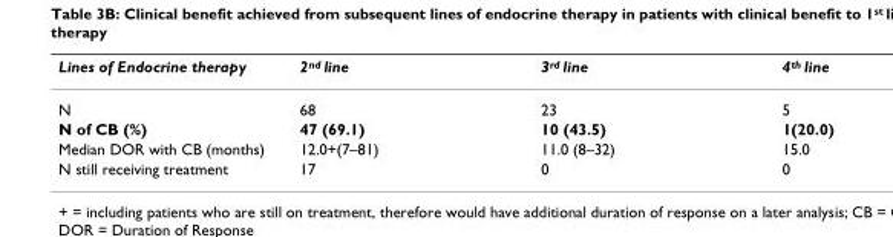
<table><thead><tr><td>Lines of Endocrine therapy</td><td>2<sup>nd</sup> line</td><td>3<sup>rd</sup> line</td><td>4<sup>th</sup> line</td></tr></thead><tbody><tr><td>N</td><td>68</td><td>23</td><td>5</td></tr><tr><td>N of CB (%)</td><td>47 (69.1)</td><td>10 (43.5)</td><td>1(20.0)</td></tr><tr><td>Median DOR with CB (months)</td><td>12.0+(7–81)</td><td>11.0 (8–32)</td><td>15.0</td></tr><tr><td>N still receiving treatment</td><td>17</td><td>0</td><td>0</td></tr></tbody></table>